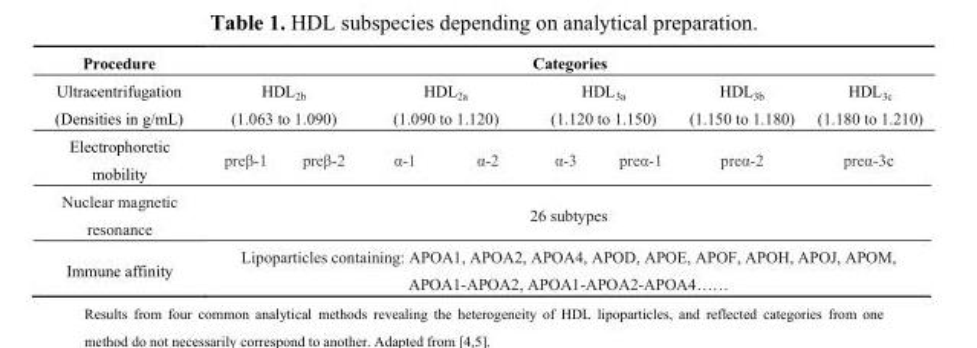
<table><thead><tr><td rowspan="3">Procedure Ultracentrifugation (Densities in g/mL) Electrophoretic mobility</td><td colspan="8">Categories</td></tr><tr><td colspan="2">HDL<sub>2b</sub> (1.063 to 1.090)</td><td colspan="2">HDL<sub>2a</sub> (1.090 to 1.120)</td><td colspan="2">HDL<sub>3a</sub> (1.120 to 1.150)</td><td rowspan="2">HDL<sub>3b</sub> (1.150 to 1.180) preα-2</td><td rowspan="2">HDL<sub>3c</sub> (1.180 to 1.210) preα-3c</td></tr><tr><td>preβ-1</td><td>preβ-2</td><td>α-1</td><td>α-2</td><td>α-3</td><td>preα-1</td></tr></thead><tbody><tr><td>Nuclear magnetic resonance</td><td colspan="8">26 subtypes</td></tr><tr><td>Immune affinity</td><td colspan="8">Lipoparticles containing: APOA1, APOA2, APOA4, APOD, APOE, APOF, APOH, APOJ, APOM, APOA1-APOA2, APOA1-APOA2-APOA4……</td></tr></tbody></table>